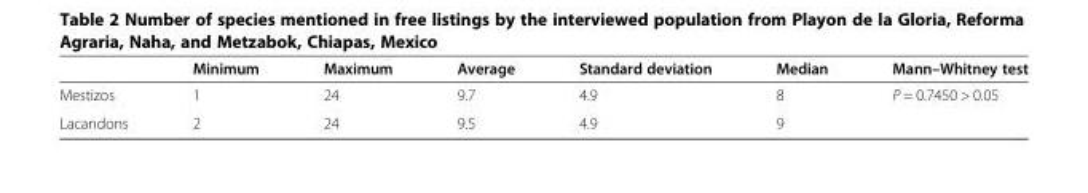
<table><thead><tr><td></td><td>Minimum</td><td>Maximum</td><td>Average</td><td>Standard deviation</td><td>Median</td><td>Mann–Whitney test</td></tr></thead><tbody><tr><td>Mestizos</td><td>1</td><td>24</td><td>9.7</td><td>4.9</td><td>8</td><td rowspan="2">P = 0.7450 &gt; 0.05</td></tr><tr><td>Lacandons</td><td>2</td><td>24</td><td>9.5</td><td>4.9</td><td>9</td></tr></tbody></table>